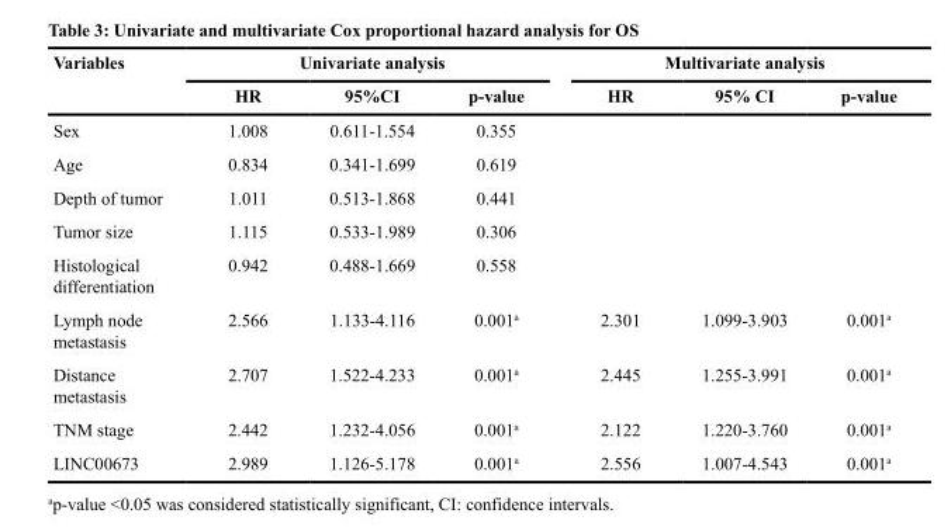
<table><thead><tr><td rowspan="2">Variables</td><td colspan="3">Univariate analysis</td><td colspan="3">Multivariate analysis</td></tr><tr><td>HR</td><td>95%CI</td><td>p-value</td><td>HR</td><td>95% CI</td><td>p-value</td></tr></thead><tbody><tr><td>Sex</td><td>1.008</td><td>0.611-1.554</td><td>0.355</td><td></td><td></td><td></td></tr><tr><td>Age</td><td>0.834</td><td>0.341-1.699</td><td>0.619</td><td></td><td></td><td></td></tr><tr><td>Depth of tumor</td><td>1.011</td><td>0.513-1.868</td><td>0.441</td><td></td><td></td><td></td></tr><tr><td>Tumor size</td><td>1.115</td><td>0.533-1.989</td><td>0.306</td><td></td><td></td><td></td></tr><tr><td>Histological differentiation</td><td>0.942</td><td>0.488-1.669</td><td>0.558</td><td></td><td></td><td></td></tr><tr><td>Lymph node metastasis</td><td>2.566</td><td>1.133-4.116</td><td>0.001<sup>a</sup></td><td>2.301</td><td>1.099-3.903</td><td>0.001<sup>a</sup></td></tr><tr><td>Distance metastasis</td><td>2.707</td><td>1.522-4.233</td><td>0.001<sup>a</sup></td><td>2.445</td><td>1.255-3.991</td><td>0.001<sup>a</sup></td></tr><tr><td>TNM stage</td><td>2.442</td><td>1.232-4.056</td><td>0.001<sup>a</sup></td><td>2.122</td><td>1.220-3.760</td><td>0.001<sup>a</sup></td></tr><tr><td>LINC00673</td><td>2.989</td><td>1.126-5.178</td><td>0.001<sup>a</sup></td><td>2.556</td><td>1.007-4.543</td><td>0.001<sup>a</sup></td></tr></tbody></table>